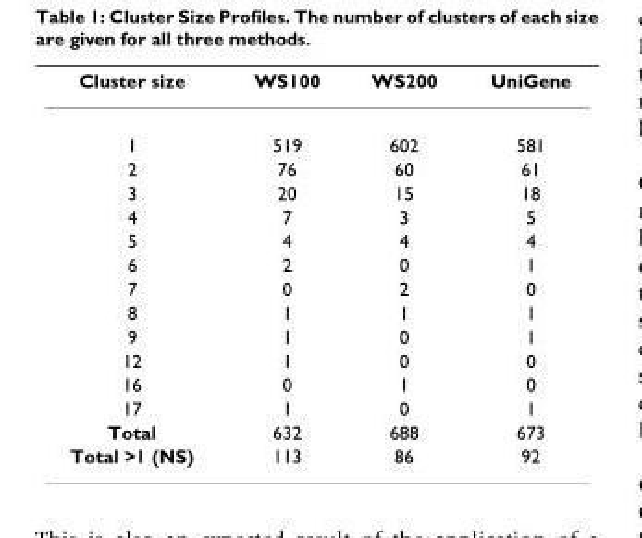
<table><thead><tr><td>Cluster size</td><td>WS100</td><td>WS200</td><td>UniGene</td></tr></thead><tbody><tr><td>1</td><td>519</td><td>602</td><td>581</td></tr><tr><td>2</td><td>76</td><td>60</td><td>61</td></tr><tr><td>3</td><td>20</td><td>15</td><td>18</td></tr><tr><td>4</td><td>7</td><td>3</td><td>5</td></tr><tr><td>5</td><td>4</td><td>4</td><td>4</td></tr><tr><td>6</td><td>2</td><td>0</td><td>1</td></tr><tr><td>7</td><td>0</td><td>2</td><td>0</td></tr><tr><td>8</td><td>1</td><td>1</td><td>1</td></tr><tr><td>9</td><td>1</td><td>0</td><td>1</td></tr><tr><td>12</td><td>1</td><td>0</td><td>0</td></tr><tr><td>16</td><td>0</td><td>1</td><td>0</td></tr><tr><td>17</td><td>1</td><td>0</td><td>1</td></tr><tr><td>Total</td><td>632</td><td>688</td><td>673</td></tr><tr><td>Total &gt;1 (NS)</td><td>113</td><td>86</td><td>92</td></tr></tbody></table>